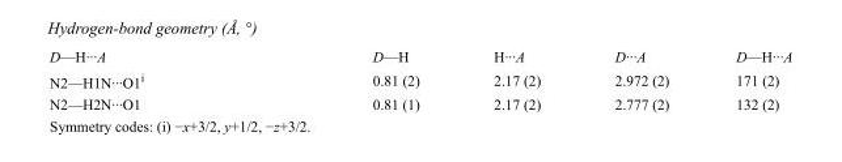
<table><tbody><tr><td>D—H···A</td><td>D—H</td><td>H···A</td><td>D···A</td><td>D—H···A</td></tr><tr><td>N2—H1N···O1<sup>i</sup></td><td>0.81 (2)</td><td>2.17 (2)</td><td>2.972 (2)</td><td>171 (2)</td></tr><tr><td>N2—H2N···O1</td><td>0.81 (1)</td><td>2.17 (2)</td><td>2.777 (2)</td><td>132 (2)</td></tr></tbody></table>